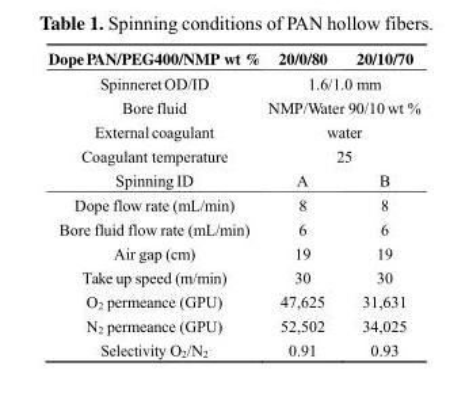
<table><thead><tr><td>Dope PAN/PEG400/NMP wt %</td><td>20/0/80</td><td>20/10/70</td></tr></thead><tbody><tr><td>Spinneret OD/ID</td><td colspan="2">1.6/1.0 mm</td></tr><tr><td>Bore fluid</td><td colspan="2">NMP/Water 90/10 wt %</td></tr><tr><td>External coagulant</td><td colspan="2">water</td></tr><tr><td>Coagulant temperature</td><td colspan="2">25</td></tr><tr><td>Spinning ID</td><td>A</td><td>B</td></tr><tr><td>Dope flow rate (mL/min)</td><td>8</td><td>8</td></tr><tr><td>Bore fluid flow rate (mL/min)</td><td>6</td><td>6</td></tr><tr><td>Air gap (cm)</td><td>19</td><td>19</td></tr><tr><td>Take up speed (m/min)</td><td>30</td><td>30</td></tr><tr><td>O<sub>2</sub> permeance (GPU)</td><td>47,625</td><td>31,631</td></tr><tr><td>N<sub>2</sub> permeance (GPU)</td><td>52,502</td><td>34,025</td></tr><tr><td>Selectivity O<sub>2</sub>/N<sub>2</sub></td><td>0.91</td><td>0.93</td></tr></tbody></table>